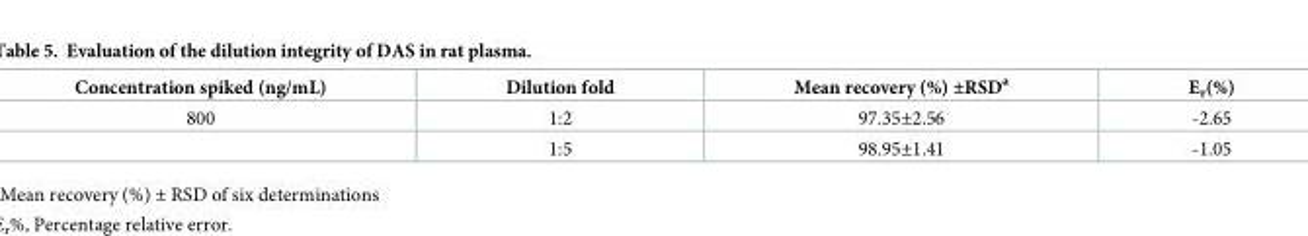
<table><thead><tr><td>Concentration spiked (ng/mL)</td><td>Dilution fold</td><td>Mean recovery (%) ±RSD<sup>a</sup></td><td>E<sub>r</sub>(%)</td></tr></thead><tbody><tr><td rowspan="2">800</td><td>1:2</td><td>97.35±2.56</td><td>-2.65</td></tr><tr><td>1:5</td><td>98.95±1.41</td><td>-1.05</td></tr></tbody></table>